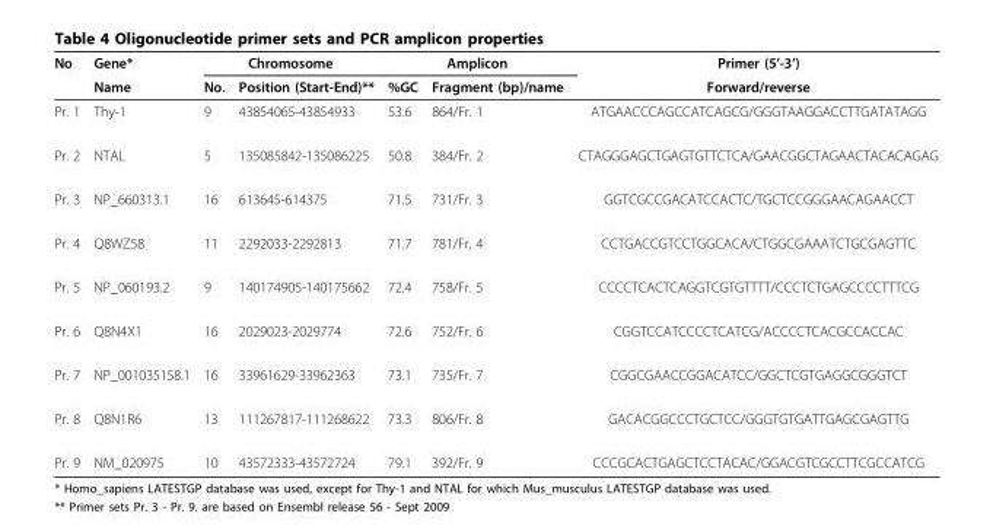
<table><thead><tr><td rowspan="2">No</td><td rowspan="2">Gene* Name</td><td colspan="2">Chromosome</td><td colspan="2">Amplicon</td><td rowspan="2">Primer (5’-3’) Forward/reverse</td></tr><tr><td>No.</td><td>Position (Start-End)**</td><td>%GC</td><td>Fragment (bp)/name</td></tr></thead><tbody><tr><td>Pr. 1</td><td>Thy-1</td><td>9</td><td>43854065-43854933</td><td>53.6</td><td>864/Fr. 1</td><td>ATGAACCCAGCCATCAGCG/GGGTAAGGACCTTGATATAGG</td></tr><tr><td>Pr. 2</td><td>NTAL</td><td>5</td><td>135085842-135086225</td><td>50.8</td><td>384/Fr. 2</td><td>CTAGGGAGCTGAGTGTTCTCA/GAACGGCTAGAACTACACAGAG</td></tr><tr><td>Pr. 3</td><td>NP_660313.1</td><td>16</td><td>613645-614375</td><td>71.5</td><td>731/Fr. 3</td><td>GGTCGCCGACATCCACTC/TGCTCCGGGAACAGAACCT</td></tr><tr><td>Pr. 4</td><td>Q8WZ58</td><td>11</td><td>2292033-2292813</td><td>71.7</td><td>781/Fr. 4</td><td>CCTGACCGTCCTGGCACA/CTGGCGAAATCTGCGAGTTC</td></tr><tr><td>Pr. 5</td><td>NP_060193.2</td><td>9</td><td>140174905-140175662</td><td>72.4</td><td>758/Fr. 5</td><td>CCCCTCACTCAGGTCGTGTTTT/CCCTCTGAGCCCCTTTCG</td></tr><tr><td>Pr. 6</td><td>Q8N4X1</td><td>16</td><td>2029023-2029774</td><td>72.6</td><td>752/Fr. 6</td><td>CGGTCCATCCCCTCATCG/ACCCCTCACGCCACCAC</td></tr><tr><td>Pr. 7</td><td>NP_001035158.1</td><td>16</td><td>33961629-33962363</td><td>73.1</td><td>735/Fr. 7</td><td>CGGCGAACCGGACATCC/GGCTCGTGAGGCGGGTCT</td></tr><tr><td>Pr. 8</td><td>Q8N1R6</td><td>13</td><td>111267817-111268622</td><td>73.3</td><td>806/Fr. 8</td><td>GACACGGCCCTGCTCC/GGGTGTGATTGAGCGAGTTG</td></tr><tr><td>Pr. 9</td><td>NM_020975</td><td>10</td><td>43572333-43572724</td><td>79.1</td><td>392/Fr. 9</td><td>CCCGCACTGAGCTCCTACAC/GGACGTCGCCTTCGCCATCG</td></tr></tbody></table>